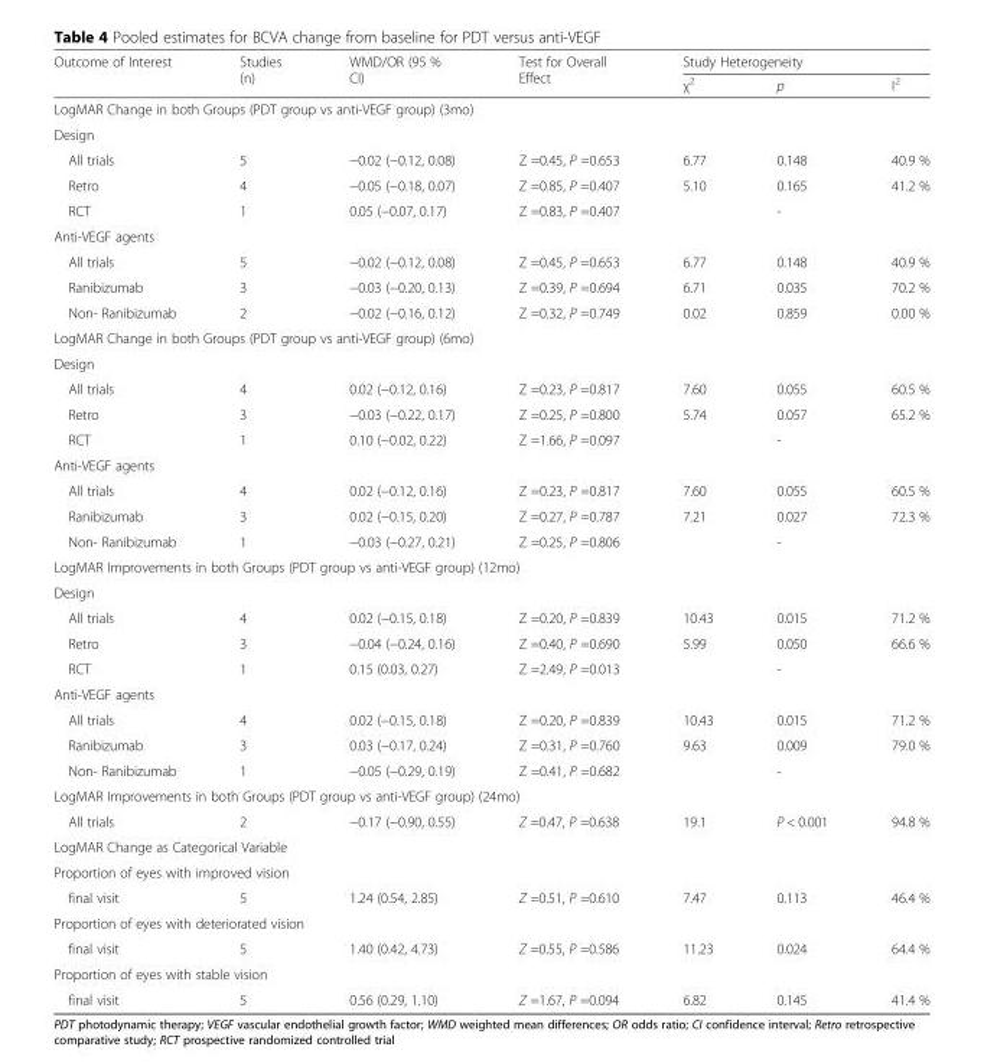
<table><thead><tr><td rowspan="2">Outcome of Interest</td><td rowspan="2">Studies (n)</td><td rowspan="2">WMD/OR (95 % CI)</td><td rowspan="2">Test for Overall Effect</td><td colspan="3">Study Heterogeneity</td></tr><tr><td>χ<sup>2</sup></td><td>p</td><td>I<sup>2</sup></td></tr></thead><tbody><tr><td colspan="7">LogMAR Change in both Groups (PDT group vs anti-VEGF group) (3mo)</td></tr><tr><td colspan="7">Design</td></tr><tr><td>All trials</td><td>5</td><td>−0.02 (−0.12, 0.08)</td><td>Z =0.45, P =0.653</td><td>6.77</td><td>0.148</td><td>40.9 %</td></tr><tr><td>Retro</td><td>4</td><td>−0.05 (−0.18, 0.07)</td><td>Z =0.85, P =0.407</td><td>5.10</td><td>0.165</td><td>41.2 %</td></tr><tr><td>RCT</td><td>1</td><td>0.05 (−0.07, 0.17)</td><td>Z =0.83, P =0.407</td><td></td><td>-</td><td></td></tr><tr><td colspan="7">Anti-VEGF agents</td></tr><tr><td>All trials</td><td>5</td><td>−0.02 (−0.12, 0.08)</td><td>Z =0.45, P =0.653</td><td>6.77</td><td>0.148</td><td>40.9 %</td></tr><tr><td>Ranibizumab</td><td>3</td><td>−0.03 (−0.20, 0.13)</td><td>Z =0.39, P =0.694</td><td>6.71</td><td>0.035</td><td>70.2 %</td></tr><tr><td>Non- Ranibizumab</td><td>2</td><td>−0.02 (−0.16, 0.12)</td><td>Z =0.32, P =0.749</td><td>0.02</td><td>0.859</td><td>0.00 %</td></tr><tr><td colspan="7">LogMAR Change in both Groups (PDT group vs anti-VEGF group) (6mo)</td></tr><tr><td colspan="7">Design</td></tr><tr><td>All trials</td><td>4</td><td>0.02 (−0.12, 0.16)</td><td>Z =0.23, P =0.817</td><td>7.60</td><td>0.055</td><td>60.5 %</td></tr><tr><td>Retro</td><td>3</td><td>−0.03 (−0.22, 0.17)</td><td>Z =0.25, P =0.800</td><td>5.74</td><td>0.057</td><td>65.2 %</td></tr><tr><td>RCT</td><td>1</td><td>0.10 (−0.02, 0.22)</td><td>Z =1.66, P =0.097</td><td></td><td>-</td><td></td></tr><tr><td colspan="7">Anti-VEGF agents</td></tr><tr><td>All trials</td><td>4</td><td>0.02 (−0.12, 0.16)</td><td>Z =0.23, P =0.817</td><td>7.60</td><td>0.055</td><td>60.5 %</td></tr><tr><td>Ranibizumab</td><td>3</td><td>0.02 (−0.15, 0.20)</td><td>Z =0.27, P =0.787</td><td>7.21</td><td>0.027</td><td>72.3 %</td></tr><tr><td>Non- Ranibizumab</td><td>1</td><td>−0.03 (−0.27, 0.21)</td><td>Z =0.25, P =0.806</td><td></td><td>-</td><td></td></tr><tr><td colspan="7">LogMAR Improvements in both Groups (PDT group vs anti-VEGF group) (12mo)</td></tr><tr><td colspan="7">Design</td></tr><tr><td>All trials</td><td>4</td><td>0.02 (−0.15, 0.18)</td><td>Z =0.20, P =0.839</td><td>10.43</td><td>0.015</td><td>71.2 %</td></tr><tr><td>Retro</td><td>3</td><td>−0.04 (−0.24, 0.16)</td><td>Z =0.40, P =0.690</td><td>5.99</td><td>0.050</td><td>66.6 %</td></tr><tr><td>RCT</td><td>1</td><td>0.15 (0.03, 0.27)</td><td>Z =2.49, P =0.013</td><td></td><td>-</td><td></td></tr><tr><td colspan="7">Anti-VEGF agents</td></tr><tr><td>All trials</td><td>4</td><td>0.02 (−0.15, 0.18)</td><td>Z =0.20, P =0.839</td><td>10.43</td><td>0.015</td><td>71.2 %</td></tr><tr><td>Ranibizumab</td><td>3</td><td>0.03 (−0.17, 0.24)</td><td>Z =0.31, P =0.760</td><td>9.63</td><td>0.009</td><td>79.0 %</td></tr><tr><td>Non- Ranibizumab</td><td>1</td><td>−0.05 (−0.29, 0.19)</td><td>Z =0.41, P =0.682</td><td></td><td>-</td><td></td></tr><tr><td colspan="7">LogMAR Improvements in both Groups (PDT group vs anti-VEGF group) (24mo)</td></tr><tr><td>All trials</td><td>2</td><td>−0.17 (−0.90, 0.55)</td><td>Z =0.47, P =0.638</td><td>19.1</td><td>P &lt; 0.001</td><td>94.8 %</td></tr><tr><td colspan="7">LogMAR Change as Categorical Variable</td></tr><tr><td colspan="7">Proportion of eyes with improved vision</td></tr><tr><td>final visit</td><td>5</td><td>1.24 (0.54, 2.85)</td><td>Z =0.51, P =0.610</td><td>7.47</td><td>0.113</td><td>46.4 %</td></tr><tr><td colspan="7">Proportion of eyes with deteriorated vision</td></tr><tr><td>final visit</td><td>5</td><td>1.40 (0.42, 4.73)</td><td>Z =0.55, P =0.586</td><td>11.23</td><td>0.024</td><td>64.4 %</td></tr><tr><td colspan="7">Proportion of eyes with stable vision</td></tr><tr><td>final visit</td><td>5</td><td>0.56 (0.29, 1.10)</td><td>Z =1.67, P =0.094</td><td>6.82</td><td>0.145</td><td>41.4 %</td></tr></tbody></table>